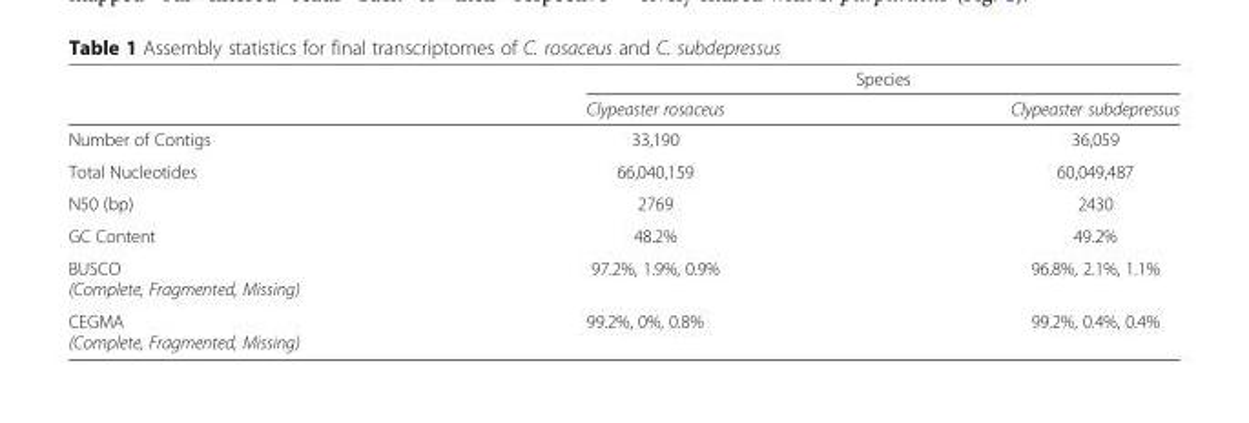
<table><thead><tr><td rowspan="2"></td><td colspan="2">Species</td></tr><tr><td>Clypeaster rosaceus</td><td>Clypeaster subdepressus</td></tr></thead><tbody><tr><td>Number of Contigs</td><td>33,190</td><td>36,059</td></tr><tr><td>Total Nucleotides</td><td>66,040,159</td><td>60,049,487</td></tr><tr><td>N50 (bp)</td><td>2769</td><td>2430</td></tr><tr><td>GC Content</td><td>48.2%</td><td>49.2%</td></tr><tr><td>BUSCO (Complete, Fragmented, Missing)</td><td>97.2%, 1.9%, 0.9%</td><td>96.8%, 2.1%, 1.1%</td></tr><tr><td>CEGMA (Complete, Fragmented, Missing)</td><td>99.2%, 0%, 0.8%</td><td>99.2%, 0.4%, 0.4%</td></tr></tbody></table>